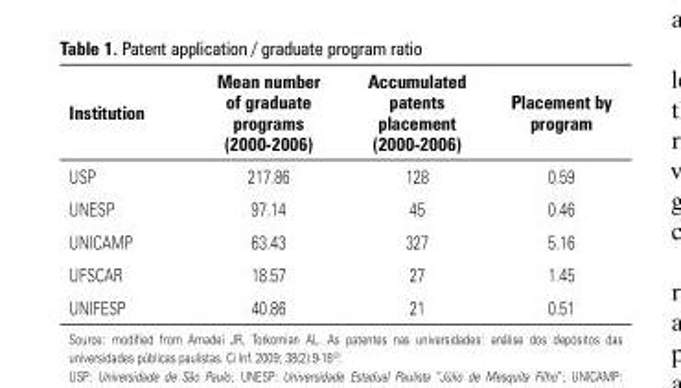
<table><thead><tr><td>Institution</td><td>Mean number of graduate programs (2000-2006)</td><td>Accumulated patents placement (2000-2006)</td><td>Placement by program</td></tr></thead><tbody><tr><td>USP</td><td>217.86</td><td>128</td><td>0.59</td></tr><tr><td>UNESP</td><td>97.14</td><td>45</td><td>0.46</td></tr><tr><td>UNICAMP</td><td>63.43</td><td>327</td><td>5.16</td></tr><tr><td>UFSCAR</td><td>18.57</td><td>27</td><td>1.45</td></tr><tr><td>UNIFESP</td><td>40.86</td><td>21</td><td>0.51</td></tr></tbody></table>